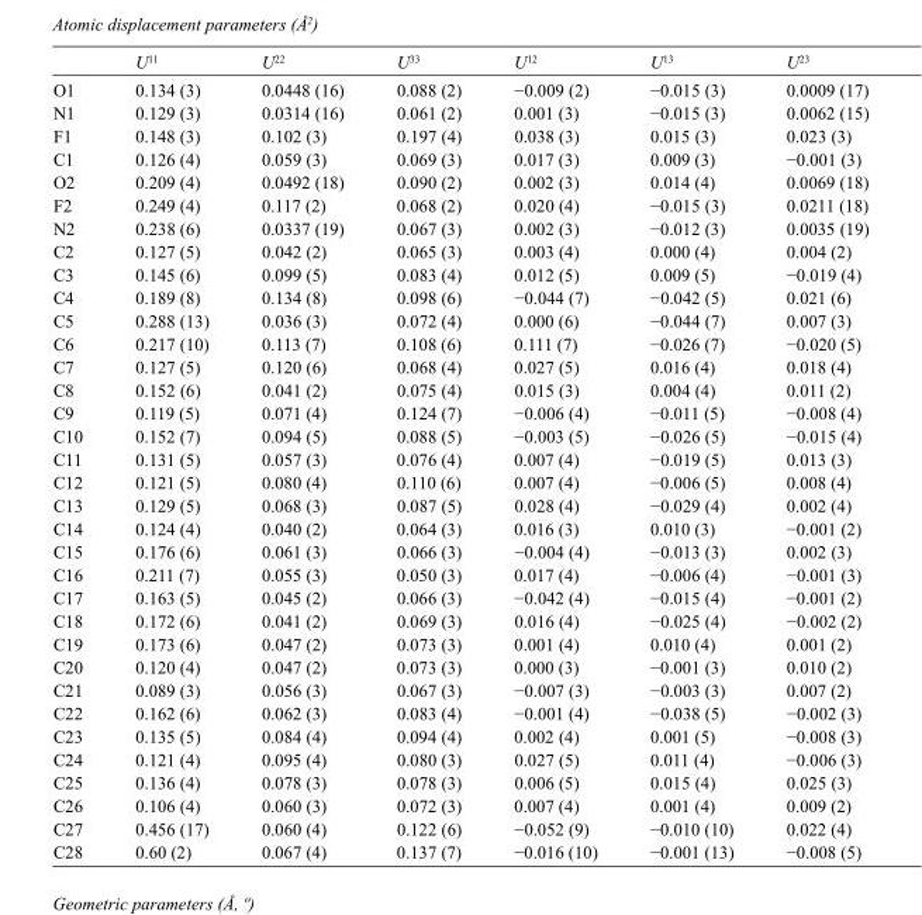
<table><thead><tr><td></td><td>U<sup>11</sup></td><td>U<sup>22</sup></td><td>U<sup>33</sup></td><td>U<sup>12</sup></td><td>U<sup>13</sup></td><td>U<sup>23</sup></td></tr></thead><tbody><tr><td>O1</td><td>0.134 (3)</td><td>0.0448 (16)</td><td>0.088 (2)</td><td>−0.009 (2)</td><td>−0.015 (3)</td><td>0.0009 (17)</td></tr><tr><td>N1</td><td>0.129 (3)</td><td>0.0314 (16)</td><td>0.061 (2)</td><td>0.001 (3)</td><td>−0.015 (3)</td><td>0.0062 (15)</td></tr><tr><td>F1</td><td>0.148 (3)</td><td>0.102 (3)</td><td>0.197 (4)</td><td>0.038 (3)</td><td>0.015 (3)</td><td>0.023 (3)</td></tr><tr><td>C1</td><td>0.126 (4)</td><td>0.059 (3)</td><td>0.069 (3)</td><td>0.017 (3)</td><td>0.009 (3)</td><td>−0.001 (3)</td></tr><tr><td>O2</td><td>0.209 (4)</td><td>0.0492 (18)</td><td>0.090 (2)</td><td>0.002 (3)</td><td>0.014 (4)</td><td>0.0069 (18)</td></tr><tr><td>F2</td><td>0.249 (4)</td><td>0.117 (2)</td><td>0.068 (2)</td><td>0.020 (4)</td><td>−0.015 (3)</td><td>0.0211 (18)</td></tr><tr><td>N2</td><td>0.238 (6)</td><td>0.0337 (19)</td><td>0.067 (3)</td><td>0.002 (3)</td><td>−0.012 (3)</td><td>0.0035 (19)</td></tr><tr><td>C2</td><td>0.127 (5)</td><td>0.042 (2)</td><td>0.065 (3)</td><td>0.003 (4)</td><td>0.000 (4)</td><td>0.004 (2)</td></tr><tr><td>C3</td><td>0.145 (6)</td><td>0.099 (5)</td><td>0.083 (4)</td><td>0.012 (5)</td><td>0.009 (5)</td><td>−0.019 (4)</td></tr><tr><td>C4</td><td>0.189 (8)</td><td>0.134 (8)</td><td>0.098 (6)</td><td>−0.044 (7)</td><td>−0.042 (5)</td><td>0.021 (6)</td></tr><tr><td>C5</td><td>0.288 (13)</td><td>0.036 (3)</td><td>0.072 (4)</td><td>0.000 (6)</td><td>−0.044 (7)</td><td>0.007 (3)</td></tr><tr><td>C6</td><td>0.217 (10)</td><td>0.113 (7)</td><td>0.108 (6)</td><td>0.111 (7)</td><td>−0.026 (7)</td><td>−0.020 (5)</td></tr><tr><td>C7</td><td>0.127 (5)</td><td>0.120 (6)</td><td>0.068 (4)</td><td>0.027 (5)</td><td>0.016 (4)</td><td>0.018 (4)</td></tr><tr><td>C8</td><td>0.152 (6)</td><td>0.041 (2)</td><td>0.075 (4)</td><td>0.015 (3)</td><td>0.004 (4)</td><td>0.011 (2)</td></tr><tr><td>C9</td><td>0.119 (5)</td><td>0.071 (4)</td><td>0.124 (7)</td><td>−0.006 (4)</td><td>−0.011 (5)</td><td>−0.008 (4)</td></tr><tr><td>C10</td><td>0.152 (7)</td><td>0.094 (5)</td><td>0.088 (5)</td><td>−0.003 (5)</td><td>−0.026 (5)</td><td>−0.015 (4)</td></tr><tr><td>C11</td><td>0.131 (5)</td><td>0.057 (3)</td><td>0.076 (4)</td><td>0.007 (4)</td><td>−0.019 (5)</td><td>0.013 (3)</td></tr><tr><td>C12</td><td>0.121 (5)</td><td>0.080 (4)</td><td>0.110 (6)</td><td>0.007 (4)</td><td>−0.006 (5)</td><td>0.008 (4)</td></tr><tr><td>C13</td><td>0.129 (5)</td><td>0.068 (3)</td><td>0.087 (5)</td><td>0.028 (4)</td><td>−0.029 (4)</td><td>0.002 (4)</td></tr><tr><td>C14</td><td>0.124 (4)</td><td>0.040 (2)</td><td>0.064 (3)</td><td>0.016 (3)</td><td>0.010 (3)</td><td>−0.001 (2)</td></tr><tr><td>C15</td><td>0.176 (6)</td><td>0.061 (3)</td><td>0.066 (3)</td><td>−0.004 (4)</td><td>−0.013 (3)</td><td>0.002 (3)</td></tr><tr><td>C16</td><td>0.211 (7)</td><td>0.055 (3)</td><td>0.050 (3)</td><td>0.017 (4)</td><td>−0.006 (4)</td><td>−0.001 (3)</td></tr><tr><td>C17</td><td>0.163 (5)</td><td>0.045 (2)</td><td>0.066 (3)</td><td>−0.042 (4)</td><td>−0.015 (4)</td><td>−0.001 (2)</td></tr><tr><td>C18</td><td>0.172 (6)</td><td>0.041 (2)</td><td>0.069 (3)</td><td>0.016 (4)</td><td>−0.025 (4)</td><td>−0.002 (2)</td></tr><tr><td>C19</td><td>0.173 (6)</td><td>0.047 (2)</td><td>0.073 (3)</td><td>0.001 (4)</td><td>0.010 (4)</td><td>0.001 (2)</td></tr><tr><td>C20</td><td>0.120 (4)</td><td>0.047 (2)</td><td>0.073 (3)</td><td>0.000 (3)</td><td>−0.001 (3)</td><td>0.010 (2)</td></tr><tr><td>C21</td><td>0.089 (3)</td><td>0.056 (3)</td><td>0.067 (3)</td><td>−0.007 (3)</td><td>−0.003 (3)</td><td>0.007 (2)</td></tr><tr><td>C22</td><td>0.162 (6)</td><td>0.062 (3)</td><td>0.083 (4)</td><td>−0.001 (4)</td><td>−0.038 (5)</td><td>−0.002 (3)</td></tr><tr><td>C23</td><td>0.135 (5)</td><td>0.084 (4)</td><td>0.094 (4)</td><td>0.002 (4)</td><td>0.001 (5)</td><td>−0.008 (3)</td></tr><tr><td>C24</td><td>0.121 (4)</td><td>0.095 (4)</td><td>0.080 (3)</td><td>0.027 (5)</td><td>0.011 (4)</td><td>−0.006 (3)</td></tr><tr><td>C25</td><td>0.136 (4)</td><td>0.078 (3)</td><td>0.078 (3)</td><td>0.006 (5)</td><td>0.015 (4)</td><td>0.025 (3)</td></tr><tr><td>C26</td><td>0.106 (4)</td><td>0.060 (3)</td><td>0.072 (3)</td><td>0.007 (4)</td><td>0.001 (4)</td><td>0.009 (2)</td></tr><tr><td>C27</td><td>0.456 (17)</td><td>0.060 (4)</td><td>0.122 (6)</td><td>−0.052 (9)</td><td>−0.010 (10)</td><td>0.022 (4)</td></tr><tr><td>C28</td><td>0.60 (2)</td><td>0.067 (4)</td><td>0.137 (7)</td><td>−0.016 (10)</td><td>−0.001 (13)</td><td>−0.008 (5)</td></tr></tbody></table>